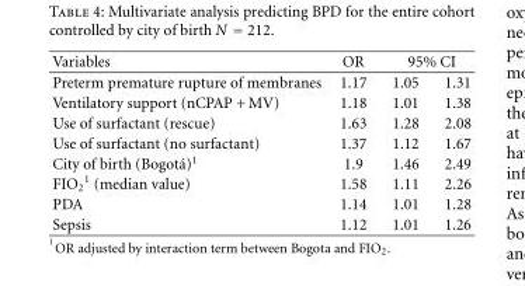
<table><thead><tr><td rowspan="2">Variables Preterm premature rupture of membranes</td><td rowspan="2">OR 1.17</td><td colspan="2">95% CI</td></tr><tr><td>1.05</td><td>1.31</td></tr></thead><tbody><tr><td>Ventilatory support (nCPAP + MV)</td><td>1.18</td><td>1.01</td><td>1.38</td></tr><tr><td>Use of surfactant (rescue)</td><td>1.63</td><td>1.28</td><td>2.08</td></tr><tr><td>Use of surfactant (no surfactant)</td><td>1.37</td><td>1.12</td><td>1.67</td></tr><tr><td>City of birth (Bogot´a)1</td><td>1.9</td><td>1.46</td><td>2.49</td></tr><tr><td>FIO<sub>2</sub> <sup>1</sup> (median value)</td><td>1.58</td><td>1.11</td><td>2.26</td></tr><tr><td>PDA</td><td>1.14</td><td>1.01</td><td>1.28</td></tr><tr><td>Sepsis</td><td>1.12</td><td>1.01</td><td>1.26</td></tr></tbody></table>